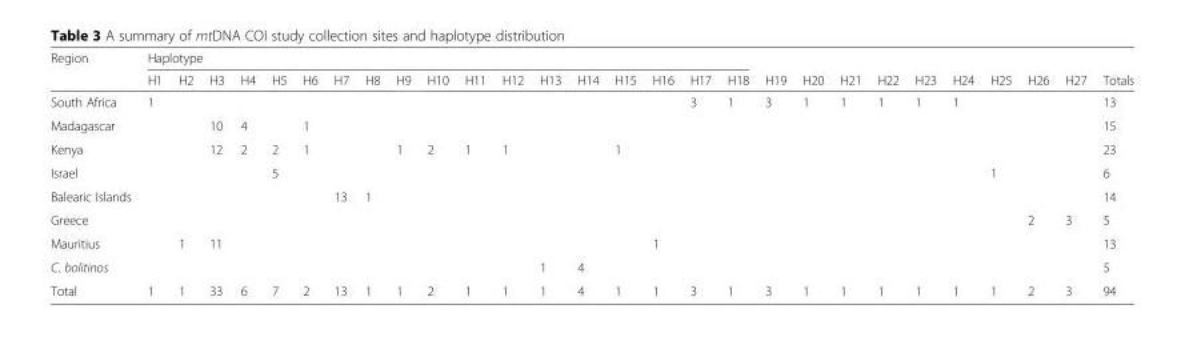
<table><thead><tr><td rowspan="2">Region</td><td colspan="18">Haplotype</td><td rowspan="2">H19</td><td rowspan="2">H20</td><td rowspan="2">H21</td><td rowspan="2">H22</td><td rowspan="2">H23</td><td rowspan="2">H24</td><td rowspan="2">H25</td><td rowspan="2">H26</td><td rowspan="2">H27</td><td rowspan="2">Totals</td></tr><tr><td>H1</td><td>H2</td><td>H3</td><td>H4</td><td>H5</td><td>H6</td><td>H7</td><td>H8</td><td>H9</td><td>H10</td><td>H11</td><td>H12</td><td>H13</td><td>H14</td><td>H15</td><td>H16</td><td>H17</td><td>H18</td></tr></thead><tbody><tr><td>South Africa</td><td>1</td><td></td><td></td><td></td><td></td><td></td><td></td><td></td><td></td><td></td><td></td><td></td><td></td><td></td><td></td><td></td><td>3</td><td>1</td><td>3</td><td>1</td><td>1</td><td>1</td><td>1</td><td>1</td><td></td><td></td><td></td><td>13</td></tr><tr><td>Madagascar</td><td></td><td></td><td>10</td><td>4</td><td></td><td>1</td><td></td><td></td><td></td><td></td><td></td><td></td><td></td><td></td><td></td><td></td><td></td><td></td><td></td><td></td><td></td><td></td><td></td><td></td><td></td><td></td><td></td><td>15</td></tr><tr><td>Kenya</td><td></td><td></td><td>12</td><td>2</td><td>2</td><td>1</td><td></td><td></td><td>1</td><td>2</td><td>1</td><td>1</td><td></td><td></td><td>1</td><td></td><td></td><td></td><td></td><td></td><td></td><td></td><td></td><td></td><td></td><td></td><td></td><td>23</td></tr><tr><td>Israel</td><td></td><td></td><td></td><td></td><td>5</td><td></td><td></td><td></td><td></td><td></td><td></td><td></td><td></td><td></td><td></td><td></td><td></td><td></td><td></td><td></td><td></td><td></td><td></td><td></td><td>1</td><td></td><td></td><td>6</td></tr><tr><td>Balearic Islands</td><td></td><td></td><td></td><td></td><td></td><td></td><td>13</td><td>1</td><td></td><td></td><td></td><td></td><td></td><td></td><td></td><td></td><td></td><td></td><td></td><td></td><td></td><td></td><td></td><td></td><td></td><td></td><td></td><td>14</td></tr><tr><td>Greece</td><td></td><td></td><td></td><td></td><td></td><td></td><td></td><td></td><td></td><td></td><td></td><td></td><td></td><td></td><td></td><td></td><td></td><td></td><td></td><td></td><td></td><td></td><td></td><td></td><td></td><td>2</td><td>3</td><td>5</td></tr><tr><td>Mauritius</td><td></td><td>1</td><td>11</td><td></td><td></td><td></td><td></td><td></td><td></td><td></td><td></td><td></td><td></td><td></td><td></td><td>1</td><td></td><td></td><td></td><td></td><td></td><td></td><td></td><td></td><td></td><td></td><td></td><td>13</td></tr><tr><td>C. bolitinos</td><td></td><td></td><td></td><td></td><td></td><td></td><td></td><td></td><td></td><td></td><td></td><td></td><td>1</td><td>4</td><td></td><td></td><td></td><td></td><td></td><td></td><td></td><td></td><td></td><td></td><td></td><td></td><td></td><td>5</td></tr><tr><td>Total</td><td>1</td><td>1</td><td>33</td><td>6</td><td>7</td><td>2</td><td>13</td><td>1</td><td>1</td><td>2</td><td>1</td><td>1</td><td>1</td><td>4</td><td>1</td><td>1</td><td>3</td><td>1</td><td>3</td><td>1</td><td>1</td><td>1</td><td>1</td><td>1</td><td>1</td><td>2</td><td>3</td><td>94</td></tr></tbody></table>